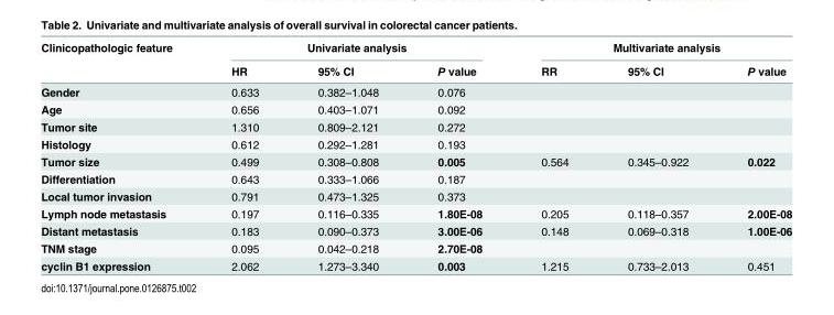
<table><thead><tr><td rowspan="2">Clinicopathologic feature</td><td colspan="3">Univariate analysis</td><td colspan="3">Multivariate analysis</td></tr><tr><td>HR</td><td>95% CI</td><td>P value</td><td>RR</td><td>95% CI</td><td>P value</td></tr></thead><tbody><tr><td>Gender</td><td>0.633</td><td>0.382–1.048</td><td>0.076</td><td></td><td></td><td></td></tr><tr><td>Age</td><td>0.656</td><td>0.403–1.071</td><td>0.092</td><td></td><td></td><td></td></tr><tr><td>Tumor site</td><td>1.310</td><td>0.809–2.121</td><td>0.272</td><td></td><td></td><td></td></tr><tr><td>Histology</td><td>0.612</td><td>0.292–1.281</td><td>0.193</td><td></td><td></td><td></td></tr><tr><td>Tumor size</td><td>0.499</td><td>0.308–0.808</td><td>0.005</td><td>0.564</td><td>0.345–0.922</td><td>0.022</td></tr><tr><td>Differentiation</td><td>0.643</td><td>0.333–1.066</td><td>0.187</td><td></td><td></td><td></td></tr><tr><td>Local tumor invasion</td><td>0.791</td><td>0.473–1.325</td><td>0.373</td><td></td><td></td><td></td></tr><tr><td>Lymph node metastasis</td><td>0.197</td><td>0.116–0.335</td><td>1.80E-08</td><td>0.205</td><td>0.118–0.357</td><td>2.00E-08</td></tr><tr><td>Distant metastasis</td><td>0.183</td><td>0.090–0.373</td><td>3.00E-06</td><td>0.148</td><td>0.069–0.318</td><td>1.00E-06</td></tr><tr><td>TNM stage</td><td>0.095</td><td>0.042–0.218</td><td>2.70E-08</td><td></td><td></td><td></td></tr><tr><td>cyclin B1 expression</td><td>2.062</td><td>1.273–3.340</td><td>0.003</td><td>1.215</td><td>0.733–2.013</td><td>0.451</td></tr></tbody></table>